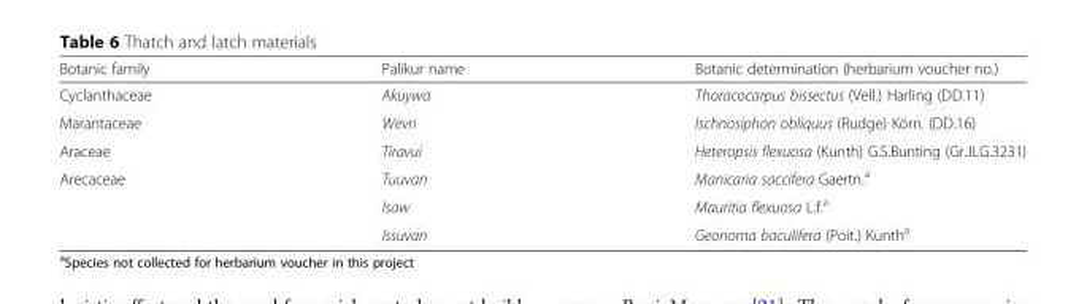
<table><thead><tr><td>Botanic family</td><td>Palikur name</td><td>Botanic determination (herbarium voucher no.)</td></tr></thead><tbody><tr><td>Cyclanthaceae</td><td>Akuywa</td><td>Thoracocarpus bissectus (Vell.) Harling (DD.11)</td></tr><tr><td>Marantaceae</td><td>Wevri</td><td>Ischnosiphon obliquus (Rudge) Körn. (DD.16)</td></tr><tr><td>Araceae</td><td>Tiravui</td><td>Heteropsis flexuosa (Kunth) G.S.Bunting (Gr.JLG.3231)</td></tr><tr><td rowspan="3">Arecaceae</td><td>Tuuvan</td><td>Manicaria saccifera Gaertn.<sup>a</sup></td></tr><tr><td>Isaw</td><td>Mauritia flexuosa L.f.<sup>a</sup></td></tr><tr><td>Issuvan</td><td>Geonoma baculifera (Poit.) Kunth<sup>a</sup></td></tr></tbody></table>